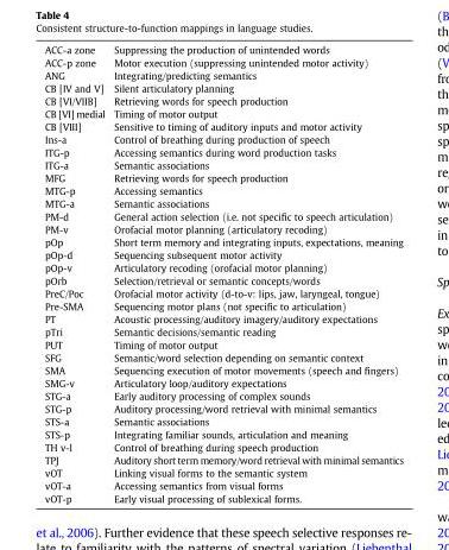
<table><tbody><tr><td>ACC-a zone</td><td>Suppressing the production of unintended words</td></tr><tr><td>ACC-p zone</td><td>Motor execution (suppressing unintended motor activity)</td></tr><tr><td>ANG</td><td>Integrating/predicting semantics</td></tr><tr><td>CB [IV and V]</td><td>Silent articulatory planning</td></tr><tr><td>CB [VI/VIIB]</td><td>Retrieving words for speech production</td></tr><tr><td>CB [VI] medial</td><td>Timing of motor output</td></tr><tr><td>CB [VIII]</td><td>Sensitive to timing of auditory inputs and motor activity</td></tr><tr><td>Ins-a</td><td>Control of breathing during production of speech</td></tr><tr><td>ITG-p</td><td>Accessing semantics during word production tasks</td></tr><tr><td>ITG-a</td><td>Semantic associations</td></tr><tr><td>MFG</td><td>Retrieving words for speech production</td></tr><tr><td>MTG-p</td><td>Accessing semantics</td></tr><tr><td>MTG-a</td><td>Semantic associations</td></tr><tr><td>PM-d</td><td>General action selection (i.e. not specific to speech articulation)</td></tr><tr><td>PM-v</td><td>Orofacial motor planning (articulatory recoding)</td></tr><tr><td>pOp</td><td>Short term memory and integrating inputs, expectations, meaning</td></tr><tr><td>pOp-d</td><td>Sequencing subsequent motor activity</td></tr><tr><td>pOp-v</td><td>Articulatory recoding (orofacial motor planning)</td></tr><tr><td>pOrb</td><td>Selection/retrieval or semantic concepts/words</td></tr><tr><td>PreC/Poc</td><td>Orofacial motor activity (d-to-v: lips, jaw, laryngeal, tongue)</td></tr><tr><td>Pre-SMA</td><td>Sequencing motor plans (not specific to articulation)</td></tr><tr><td>PT</td><td>Acoustic processing/auditory imagery/auditory expectations</td></tr><tr><td>pTri</td><td>Semantic decisions/semantic reading</td></tr><tr><td>PUT</td><td>Timing of motor output</td></tr><tr><td>SFG</td><td>Semantic/word selection depending on semantic context</td></tr><tr><td>SMA</td><td>Sequencing execution of motor movements (speech and fingers)</td></tr><tr><td>SMG-v</td><td>Articulatory loop/auditory expectations</td></tr><tr><td>STG-a</td><td>Early auditory processing of complex sounds</td></tr><tr><td>STG-p</td><td>Auditory processing/word retrieval with minimal semantics</td></tr><tr><td>STS-a</td><td>Semantic associations</td></tr><tr><td>STS-p</td><td>Integrating familiar sounds, articulation and meaning</td></tr><tr><td>TH v-l</td><td>Control of breathing during speech production</td></tr><tr><td>TPJ</td><td>Auditory short term memory/word retrieval with minimal semantics</td></tr><tr><td>vOT</td><td>Linking visual forms to the semantic system</td></tr><tr><td>vOT-a</td><td>Accessing semantics from visual forms</td></tr><tr><td>vOT-p</td><td>Early visual processing of sublexical forms.</td></tr></tbody></table>